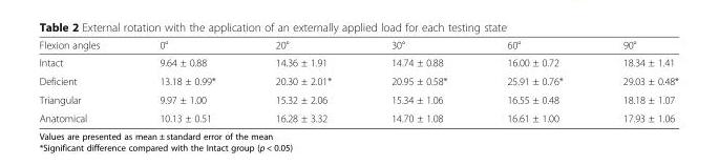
<table><thead><tr><td>Flexion angles</td><td>0°</td><td>20°</td><td>30°</td><td>60°</td><td>90°</td></tr></thead><tbody><tr><td>Intact</td><td>9.64 ± 0.88</td><td>14.36 ± 1.91</td><td>14.74 ± 0.88</td><td>16.00 ± 0.72</td><td>18.34 ± 1.41</td></tr><tr><td>Deficient</td><td>13.18 ± 0.99*</td><td>20.30 ± 2.01*</td><td>20.95 ± 0.58*</td><td>25.91 ± 0.76*</td><td>29.03 ± 0.48*</td></tr><tr><td>Triangular</td><td>9.97 ± 1.00</td><td>15.32 ± 2.06</td><td>15.34 ± 1.06</td><td>16.55 ± 0.48</td><td>18.18 ± 1.07</td></tr><tr><td>Anatomical</td><td>10.13 ± 0.51</td><td>16.28 ± 3.32</td><td>14.70 ± 1.08</td><td>16.61 ± 1.00</td><td>17.93 ± 1.06</td></tr></tbody></table>